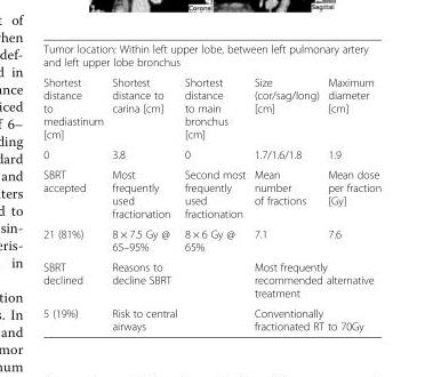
<table><tbody><tr><td colspan="5">Tumor location: Within left upper lobe, between left pulmonary artery and left upper lobe bronchus</td></tr><tr><td>Shortest distance to mediastinum [cm]</td><td>Shortest distance to carina [cm]</td><td>Shortest distance to main bronchus [cm]</td><td>Size (cor/sag/long) [cm]</td><td>Maximum diameter [cm]</td></tr><tr><td>0</td><td>3.8</td><td>0</td><td>1.7/1.6/1.8</td><td>1.9</td></tr><tr><td>SBRT accepted</td><td>Most frequently used fractionation</td><td>Second most frequently used fractionation</td><td>Mean number of fractions</td><td>Mean dose per fraction [Gy]</td></tr><tr><td>21 (81%)</td><td>8 × 7.5 Gy @ 65–95%</td><td>8 × 6 Gy @ 65%</td><td>7.1</td><td>7.6</td></tr><tr><td>SBRT declined</td><td colspan="2">Reasons to decline SBRT</td><td colspan="2">Most frequently recommended alternative treatment</td></tr><tr><td>5 (19%)</td><td colspan="2">Risk to central airways</td><td colspan="2">Conventionally fractionated RT to 70Gy</td></tr></tbody></table>